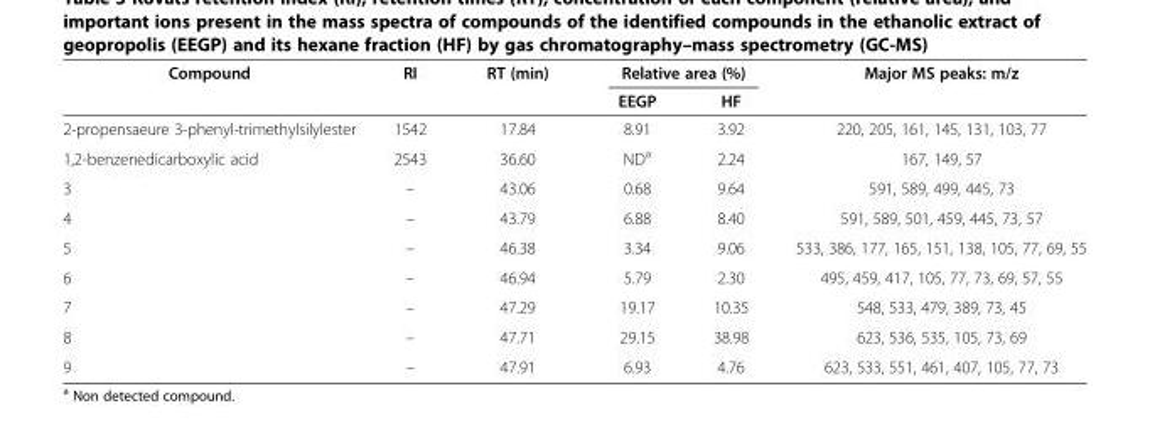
<table><thead><tr><td rowspan="2">Compound</td><td rowspan="2">RI</td><td rowspan="2">RT (min)</td><td colspan="2">Relative area (%)</td><td rowspan="2">Major MS peaks: m/z</td></tr><tr><td>EEGP</td><td>HF</td></tr></thead><tbody><tr><td>2-propensaeure 3-phenyl-trimethylsilylester</td><td>1542</td><td>17.84</td><td>8.91</td><td>3.92</td><td>220, 205, 161, 145, 131, 103, 77</td></tr><tr><td>1,2-benzenedicarboxylic acid</td><td>2543</td><td>36.60</td><td>ND<sup>a</sup></td><td>2.24</td><td>167, 149, 57</td></tr><tr><td>3</td><td>–</td><td>43.06</td><td>0.68</td><td>9.64</td><td>591, 589, 499, 445, 73</td></tr><tr><td>4</td><td>–</td><td>43.79</td><td>6.88</td><td>8.40</td><td>591, 589, 501, 459, 445, 73, 57</td></tr><tr><td>5</td><td>–</td><td>46.38</td><td>3.34</td><td>9.06</td><td>533, 386, 177, 165, 151, 138, 105, 77, 69, 55</td></tr><tr><td>6</td><td>–</td><td>46.94</td><td>5.79</td><td>2.30</td><td>495, 459, 417, 105, 77, 73, 69, 57, 55</td></tr><tr><td>7</td><td>–</td><td>47.29</td><td>19.17</td><td>10.35</td><td>548, 533, 479, 389, 73, 45</td></tr><tr><td>8</td><td>–</td><td>47.71</td><td>29.15</td><td>38.98</td><td>623, 536, 535, 105, 73, 69</td></tr><tr><td>9</td><td>–</td><td>47.91</td><td>6.93</td><td>4.76</td><td>623, 533, 551, 461, 407, 105, 77, 73</td></tr></tbody></table>